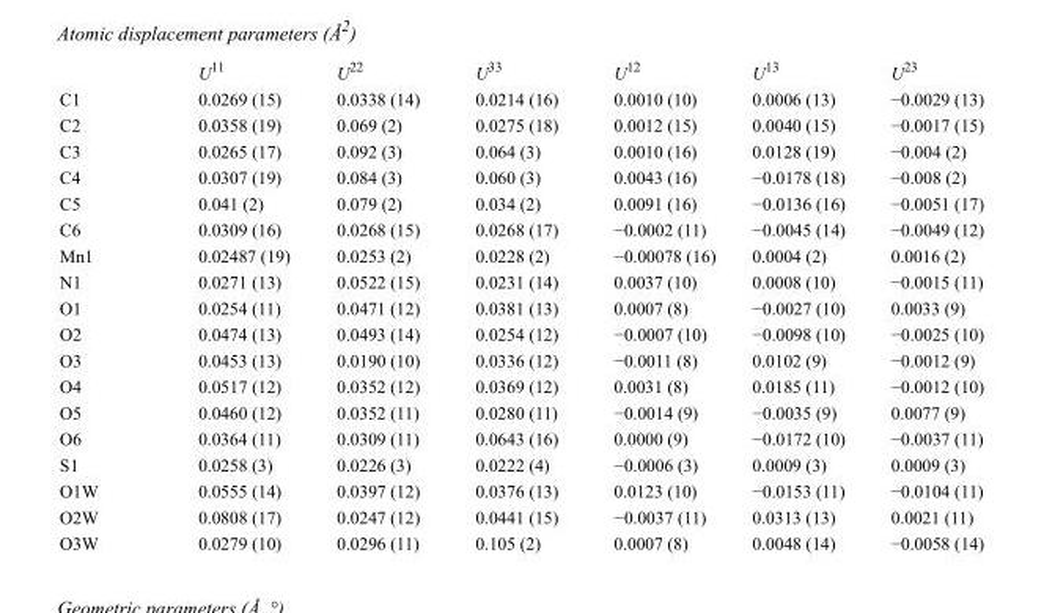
<table><thead><tr><td></td><td>U<sup>11</sup></td><td>U<sup>22</sup></td><td>U<sup>33</sup></td><td>U<sup>12</sup></td><td>U<sup>13</sup></td><td>U<sup>23</sup></td></tr></thead><tbody><tr><td>C1</td><td>0.0269 (15)</td><td>0.0338 (14)</td><td>0.0214 (16)</td><td>0.0010 (10)</td><td>0.0006 (13)</td><td>−0.0029 (13)</td></tr><tr><td>C2</td><td>0.0358 (19)</td><td>0.069 (2)</td><td>0.0275 (18)</td><td>0.0012 (15)</td><td>0.0040 (15)</td><td>−0.0017 (15)</td></tr><tr><td>C3</td><td>0.0265 (17)</td><td>0.092 (3)</td><td>0.064 (3)</td><td>0.0010 (16)</td><td>0.0128 (19)</td><td>−0.004 (2)</td></tr><tr><td>C4</td><td>0.0307 (19)</td><td>0.084 (3)</td><td>0.060 (3)</td><td>0.0043 (16)</td><td>−0.0178 (18)</td><td>−0.008 (2)</td></tr><tr><td>C5</td><td>0.041 (2)</td><td>0.079 (2)</td><td>0.034 (2)</td><td>0.0091 (16)</td><td>−0.0136 (16)</td><td>−0.0051 (17)</td></tr><tr><td>C6</td><td>0.0309 (16)</td><td>0.0268 (15)</td><td>0.0268 (17)</td><td>−0.0002 (11)</td><td>−0.0045 (14)</td><td>−0.0049 (12)</td></tr><tr><td>Mn1</td><td>0.02487 (19)</td><td>0.0253 (2)</td><td>0.0228 (2)</td><td>−0.00078 (16)</td><td>0.0004 (2)</td><td>0.0016 (2)</td></tr><tr><td>N1</td><td>0.0271 (13)</td><td>0.0522 (15)</td><td>0.0231 (14)</td><td>0.0037 (10)</td><td>0.0008 (10)</td><td>−0.0015 (11)</td></tr><tr><td>O1</td><td>0.0254 (11)</td><td>0.0471 (12)</td><td>0.0381 (13)</td><td>0.0007 (8)</td><td>−0.0027 (10)</td><td>0.0033 (9)</td></tr><tr><td>O2</td><td>0.0474 (13)</td><td>0.0493 (14)</td><td>0.0254 (12)</td><td>−0.0007 (10)</td><td>−0.0098 (10)</td><td>−0.0025 (10)</td></tr><tr><td>O3</td><td>0.0453 (13)</td><td>0.0190 (10)</td><td>0.0336 (12)</td><td>−0.0011 (8)</td><td>0.0102 (9)</td><td>−0.0012 (9)</td></tr><tr><td>O4</td><td>0.0517 (12)</td><td>0.0352 (12)</td><td>0.0369 (12)</td><td>0.0031 (8)</td><td>0.0185 (11)</td><td>−0.0012 (10)</td></tr><tr><td>O5</td><td>0.0460 (12)</td><td>0.0352 (11)</td><td>0.0280 (11)</td><td>−0.0014 (9)</td><td>−0.0035 (9)</td><td>0.0077 (9)</td></tr><tr><td>O6</td><td>0.0364 (11)</td><td>0.0309 (11)</td><td>0.0643 (16)</td><td>0.0000 (9)</td><td>−0.0172 (10)</td><td>−0.0037 (11)</td></tr><tr><td>S1</td><td>0.0258 (3)</td><td>0.0226 (3)</td><td>0.0222 (4)</td><td>−0.0006 (3)</td><td>0.0009 (3)</td><td>0.0009 (3)</td></tr><tr><td>O1W</td><td>0.0555 (14)</td><td>0.0397 (12)</td><td>0.0376 (13)</td><td>0.0123 (10)</td><td>−0.0153 (11)</td><td>−0.0104 (11)</td></tr><tr><td>O2W</td><td>0.0808 (17)</td><td>0.0247 (12)</td><td>0.0441 (15)</td><td>−0.0037 (11)</td><td>0.0313 (13)</td><td>0.0021 (11)</td></tr><tr><td>O3W</td><td>0.0279 (10)</td><td>0.0296 (11)</td><td>0.105 (2)</td><td>0.0007 (8)</td><td>0.0048 (14)</td><td>−0.0058 (14)</td></tr></tbody></table>